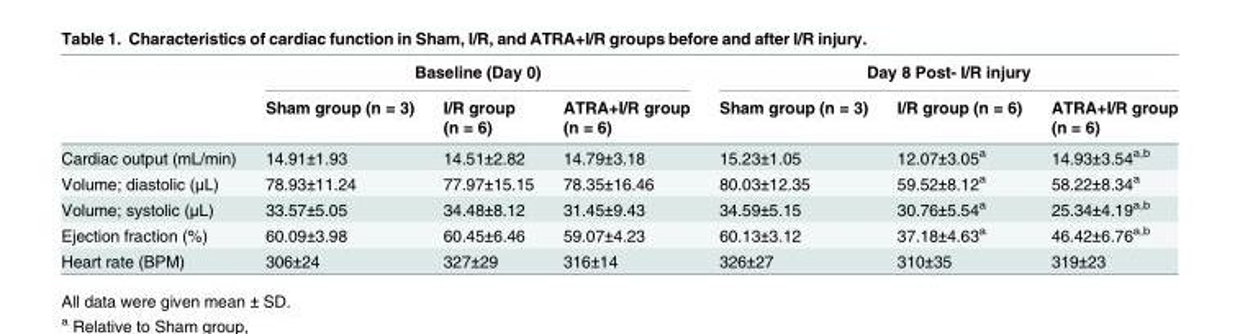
<table><thead><tr><td rowspan="2"></td><td colspan="3">Baseline (Day 0)</td><td colspan="3">Day 8 Post- I/R injury</td></tr><tr><td>Sham group (n = 3)</td><td>I/R group (n = 6)</td><td>ATRA+I/R group (n = 6)</td><td>Sham group (n = 3)</td><td>I/R group (n = 6)</td><td>ATRA+I/R group (n = 6)</td></tr></thead><tbody><tr><td>Cardiac output (mL/min)</td><td>14.91±1.93</td><td>14.51±2.82</td><td>14.79±3.18</td><td>15.23±1.05</td><td>12.07±3.05<sup>a</sup></td><td>14.93±3.54<sup>a,b</sup></td></tr><tr><td>Volume; diastolic (μL)</td><td>78.93±11.24</td><td>77.97±15.15</td><td>78.35±16.46</td><td>80.03±12.35</td><td>59.52±8.12<sup>a</sup></td><td>58.22±8.34<sup>a</sup></td></tr><tr><td>Volume; systolic (μL)</td><td>33.57±5.05</td><td>34.48±8.12</td><td>31.45±9.43</td><td>34.59±5.15</td><td>30.76±5.54<sup>a</sup></td><td>25.34±4.19<sup>a,b</sup></td></tr><tr><td>Ejection fraction (%)</td><td>60.09±3.98</td><td>60.45±6.46</td><td>59.07±4.23</td><td>60.13±3.12</td><td>37.18±4.63<sup>a</sup></td><td>46.42±6.76<sup>a,b</sup></td></tr><tr><td>Heart rate (BPM)</td><td>306±24</td><td>327±29</td><td>316±14</td><td>326±27</td><td>310±35</td><td>319±23</td></tr></tbody></table>